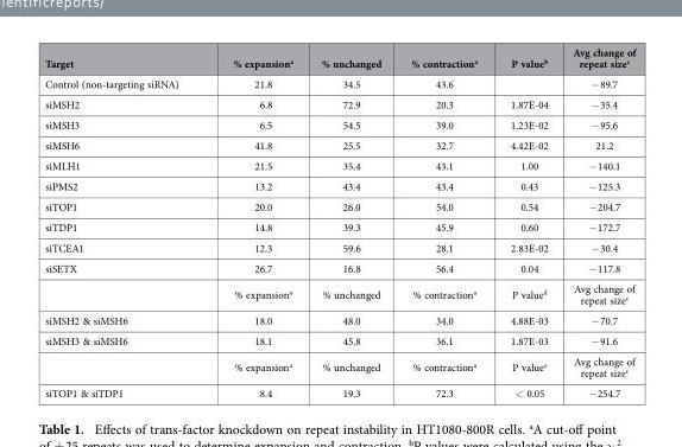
<table><thead><tr><td>Target</td><td>% expansion<sup>a</sup></td><td>% unchanged</td><td>% contraction<sup>a</sup></td><td>P value<sup>b</sup></td><td>Avg change of repeat size<sup>c</sup></td></tr></thead><tbody><tr><td>Control (non-targeting siRNA)</td><td>21.8</td><td>34.5</td><td>43.6</td><td></td><td>− 89.7</td></tr><tr><td>siMSH2</td><td>6.8</td><td>72.9</td><td>20.3</td><td>1.87E-04</td><td>− 35.4</td></tr><tr><td>siMSH3</td><td>6.5</td><td>54.5</td><td>39.0</td><td>1.23E-02</td><td>− 95.6</td></tr><tr><td>siMSH6</td><td>41.8</td><td>25.5</td><td>32.7</td><td>4.42E-02</td><td>21.2</td></tr><tr><td>siMLH1</td><td>21.5</td><td>35.4</td><td>43.1</td><td>1.00</td><td>− 140.1</td></tr><tr><td>siPMS2</td><td>13.2</td><td>43.4</td><td>43.4</td><td>0.43</td><td>− 125.3</td></tr><tr><td>siTOP1</td><td>20.0</td><td>26.0</td><td>54.0</td><td>0.54</td><td>− 204.7</td></tr><tr><td>siTDP1</td><td>14.8</td><td>39.3</td><td>45.9</td><td>0.60</td><td>− 172.7</td></tr><tr><td>siTCEA1</td><td>12.3</td><td>59.6</td><td>28.1</td><td>2.83E-02</td><td>− 30.4</td></tr><tr><td rowspan="2">siSETX</td><td>26.7</td><td>16.8</td><td>56.4</td><td>0.04</td><td>− 117.8</td></tr><tr><td>% expansion<sup>a</sup></td><td>% unchanged</td><td>% contraction<sup>a</sup></td><td>P value<sup>d</sup></td><td>Avg change of repeat size<sup>c</sup></td></tr><tr><td>siMSH2 &amp; siMSH6</td><td>18.0</td><td>48.0</td><td>34.0</td><td>4.88E-03</td><td>− 70.7</td></tr><tr><td rowspan="2">siMSH3 &amp; siMSH6</td><td>18.1</td><td>45.8</td><td>36.1</td><td>1.87E-03</td><td>− 91.6</td></tr><tr><td>% expansion<sup>a</sup></td><td>% unchanged</td><td>% contraction<sup>a</sup></td><td>P value<sup>e</sup></td><td>Avg change of repeat size<sup>c</sup></td></tr><tr><td>siTOP1 &amp; siTDP1</td><td>8.4</td><td>19.3</td><td>72.3</td><td>&lt; 0.05</td><td>− 254.7</td></tr></tbody></table>